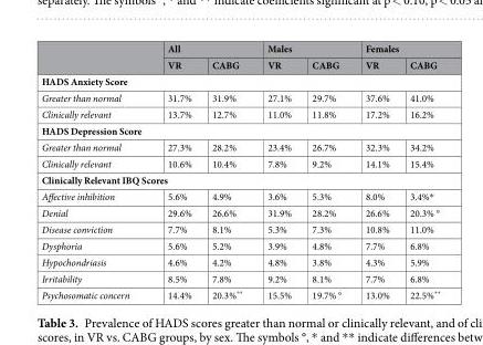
<table><thead><tr><td rowspan="2"></td><td colspan="2">All</td><td colspan="2">Males</td><td colspan="2">Females</td></tr><tr><td>VR</td><td>CABG</td><td>VR</td><td>CABG</td><td>VR</td><td>CABG</td></tr></thead><tbody><tr><td colspan="7">HADS Anxiety Score</td></tr><tr><td>Greater than normal</td><td>31.7%</td><td>31.9%</td><td>27.1%</td><td>29.7%</td><td>37.6%</td><td>41.0%</td></tr><tr><td>Clinically relevant</td><td>13.7%</td><td>12.7%</td><td>11.0%</td><td>11.8%</td><td>17.2%</td><td>16.2%</td></tr><tr><td colspan="7">HADS Depression Score</td></tr><tr><td>Greater than normal</td><td>27.3%</td><td>28.2%</td><td>23.4%</td><td>26.7%</td><td>32.3%</td><td>34.2%</td></tr><tr><td>Clinically relevant</td><td>10.6%</td><td>10.4%</td><td>7.8%</td><td>9.2%</td><td>14.1%</td><td>15.4%</td></tr><tr><td colspan="7">Clinically Relevant IBQ Scores</td></tr><tr><td>Affective inhibition</td><td>5.6%</td><td>4.9%</td><td>3.6%</td><td>5.3%</td><td>8.0%</td><td>3.4%*</td></tr><tr><td>Denial</td><td>29.6%</td><td>26.6%</td><td>31.9%</td><td>28.2%</td><td>26.6%</td><td>20.3% °</td></tr><tr><td>Disease conviction</td><td>7.7%</td><td>8.1%</td><td>5.3%</td><td>7.3%</td><td>10.8%</td><td>11.0%</td></tr><tr><td>Dysphoria</td><td>5.6%</td><td>5.2%</td><td>3.9%</td><td>4.8%</td><td>7.7%</td><td>6.8%</td></tr><tr><td>Hypochondriasis</td><td>4.6%</td><td>4.2%</td><td>4.8%</td><td>3.8%</td><td>4.3%</td><td>5.9%</td></tr><tr><td>Irritability</td><td>8.5%</td><td>7.8%</td><td>9.2%</td><td>8.1%</td><td>7.7%</td><td>6.8%</td></tr><tr><td>Psychosomatic concern</td><td>14.4%</td><td>20.3%**</td><td>15.5%</td><td>19.7% °</td><td>13.0%</td><td>22.5%**</td></tr></tbody></table>